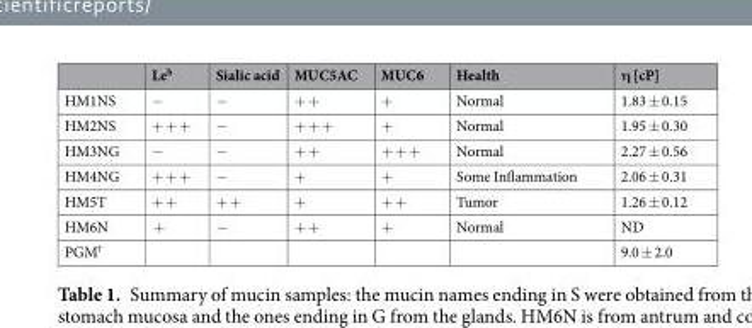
<table><thead><tr><td></td><td>Le<sup>b</sup></td><td>Sialic acid</td><td>MUC5AC</td><td>MUC6</td><td>Health</td><td>η [cP]</td></tr></thead><tbody><tr><td>HM1NS</td><td>−</td><td>−</td><td>+ +</td><td>+</td><td>Normal</td><td>1.83 ± 0.15</td></tr><tr><td>HM2NS</td><td>+ + +</td><td>−</td><td>+ + +</td><td>+</td><td>Normal</td><td>1.95 ± 0.30</td></tr><tr><td>HM3NG</td><td>−</td><td>−</td><td>+ +</td><td>+ + +</td><td>Normal</td><td>2.27 ± 0.56</td></tr><tr><td>HM4NG</td><td>+ + +</td><td>−</td><td>+</td><td>+</td><td>Some Inflammation</td><td>2.06 ± 0.31</td></tr><tr><td>HM5T</td><td>+ +</td><td>+ +</td><td>+</td><td>+ +</td><td>Tumor</td><td>1.26 ± 0.12</td></tr><tr><td>HM6N</td><td>+</td><td>−</td><td>+ +</td><td>+</td><td>Normal</td><td>ND</td></tr><tr><td>PGM<sup>†</sup></td><td></td><td></td><td></td><td></td><td></td><td>9.0 ± 2.0</td></tr></tbody></table>